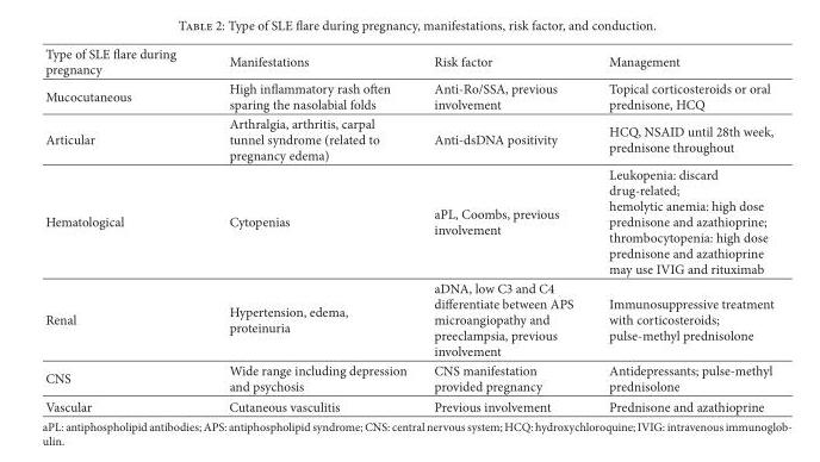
<table><thead><tr><td>Type of SLE flare during pregnancy</td><td>Manifestations</td><td>Risk factor</td><td>Management</td></tr></thead><tbody><tr><td>Mucocutaneous</td><td>High inflammatory rash often sparing the nasolabial folds</td><td>Anti-Ro/SSA, previous involvement</td><td>Topical corticosteroids or oral prednisone, HCQ</td></tr><tr><td>Articular</td><td>Arthralgia, arthritis, carpal tunnel syndrome (related to pregnancy edema)</td><td>Anti-dsDNA positivity</td><td>HCQ, NSAID until 28th week, prednisone throughout</td></tr><tr><td>Hematological</td><td>Cytopenias</td><td>aPL, Coombs, previous involvement</td><td>Leukopenia: discard drug-related; hemolytic anemia: high dose prednisone and azathioprine; thrombocytopenia: high dose prednisone and azathioprine may use IVIG and rituximab</td></tr><tr><td>Renal</td><td>Hypertension, edema, proteinuria</td><td>aDNA, low C3 and C4 differentiate between APS microangiopathy and preeclampsia, previous involvement</td><td>Immunosuppressive treatment with corticosteroids; pulse-methyl prednisolone</td></tr><tr><td>CNS</td><td>Wide range including depression and psychosis</td><td>CNS manifestation provided pregnancy</td><td>Antidepressants; pulse-methyl prednisolone</td></tr><tr><td>Vascular</td><td>Cutaneous vasculitis</td><td>Previous involvement</td><td>Prednisone and azathioprine</td></tr></tbody></table>